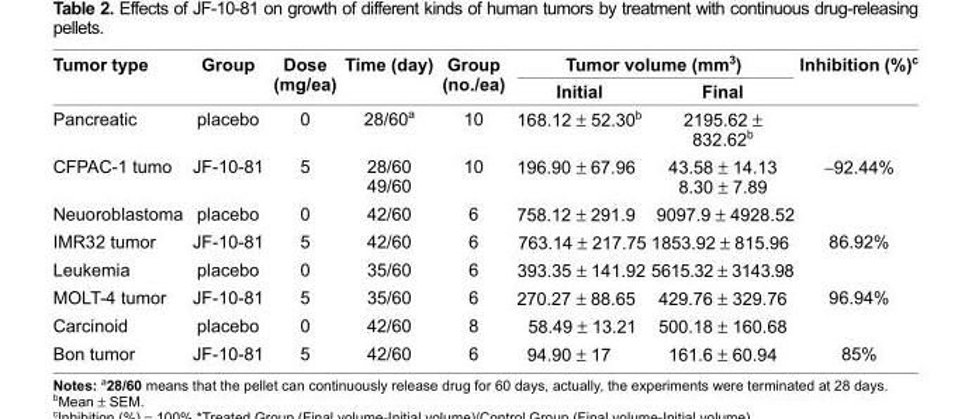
<table><thead><tr><td rowspan="2">Tumor type</td><td rowspan="2">Group</td><td rowspan="2">Dose (mg/ea)</td><td rowspan="2">Time (day)</td><td rowspan="2">Group (no./ea)</td><td colspan="2">Tumor volume (mm<sup>3</sup>)</td><td rowspan="2">Inhibition (%)<sup>c</sup></td></tr><tr><td>Initial</td><td>Final</td></tr></thead><tbody><tr><td>Pancreatic</td><td>placebo</td><td>0</td><td>28/60<sup>a</sup></td><td>10</td><td>168.12 ± 52.30<sup>b</sup></td><td>2195.62 ± 832.62<sup>b</sup></td><td></td></tr><tr><td>CFPAC-1 tumo</td><td>JF-10-81</td><td>5</td><td>28/60 49/60</td><td>10</td><td>196.90 ± 67.96</td><td>43.58 ± 14.13 8.30 ± 7.89</td><td>−92.44%</td></tr><tr><td>Neuoroblastoma</td><td>placebo</td><td>0</td><td>42/60</td><td>6</td><td>758.12 ± 291.9</td><td>9097.9 ± 4928.52</td><td></td></tr><tr><td>IMR32 tumor</td><td>JF-10-81</td><td>5</td><td>42/60</td><td>6</td><td>763.14 ± 217.75</td><td>1853.92 ± 815.96</td><td>86.92%</td></tr><tr><td>Leukemia</td><td>placebo</td><td>0</td><td>35/60</td><td>6</td><td>393.35 ± 141.92</td><td>5615.32 ± 3143.98</td><td></td></tr><tr><td>MOLT-4 tumor</td><td>JF-10-81</td><td>5</td><td>35/60</td><td>6</td><td>270.27 ± 88.65</td><td>429.76 ± 329.76</td><td>96.94%</td></tr><tr><td>Carcinoid</td><td>placebo</td><td>0</td><td>42/60</td><td>8</td><td>58.49 ± 13.21</td><td>500.18 ± 160.68</td><td></td></tr><tr><td>Bon tumor</td><td>JF-10-81</td><td>5</td><td>42/60</td><td>6</td><td>94.90 ± 17</td><td>161.6 ± 60.94</td><td>85%</td></tr></tbody></table>